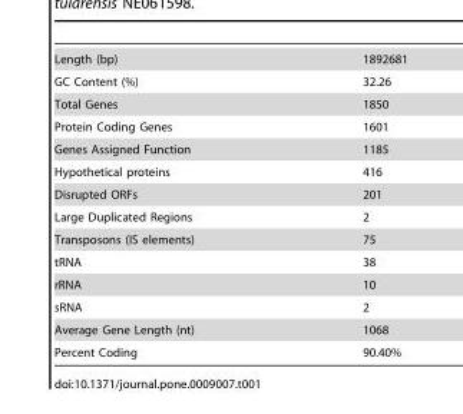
<table><tbody><tr><td>Length (bp)</td><td>1892681</td></tr><tr><td>GC Content (%)</td><td>32.26</td></tr><tr><td>Total Genes</td><td>1850</td></tr><tr><td>Protein Coding Genes</td><td>1601</td></tr><tr><td>Genes Assigned Function</td><td>1185</td></tr><tr><td>Hypothetical proteins</td><td>416</td></tr><tr><td>Disrupted ORFs</td><td>201</td></tr><tr><td>Large Duplicated Regions</td><td>2</td></tr><tr><td>Transposons (IS elements)</td><td>75</td></tr><tr><td>tRNA</td><td>38</td></tr><tr><td>rRNA</td><td>10</td></tr><tr><td>sRNA</td><td>2</td></tr><tr><td>Average Gene Length (nt)</td><td>1068</td></tr><tr><td>Percent Coding</td><td>90.40%</td></tr></tbody></table>